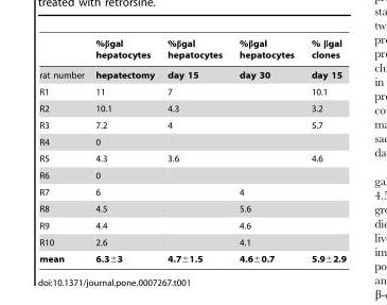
<table><thead><tr><td></td><td>%βgal hepatocytes</td><td>%βgal hepatocytes</td><td>%βgal hepatocytes</td><td>% βgal clones</td></tr></thead><tbody><tr><td>rat number</td><td>hepatectomy</td><td>day 15</td><td>day 30</td><td>day 15</td></tr><tr><td>R1</td><td>11</td><td>7</td><td></td><td>10.1</td></tr><tr><td>R2</td><td>10.1</td><td>4.3</td><td></td><td>3.2</td></tr><tr><td>R3</td><td>7.2</td><td>4</td><td></td><td>5.7</td></tr><tr><td>R4</td><td>0</td><td></td><td></td><td></td></tr><tr><td>R5</td><td>4.3</td><td>3.6</td><td></td><td>4.6</td></tr><tr><td>R6</td><td>0</td><td></td><td></td><td></td></tr><tr><td>R7</td><td>6</td><td></td><td>4</td><td></td></tr><tr><td>R8</td><td>4.5</td><td></td><td>5.6</td><td></td></tr><tr><td>R9</td><td>4.4</td><td></td><td>4.6</td><td></td></tr><tr><td>R10</td><td>2.6</td><td></td><td>4.1</td><td></td></tr><tr><td>mean</td><td>6.3±3</td><td>4.7±1.5</td><td>4.6±0.7</td><td>5.9±2.9</td></tr></tbody></table>